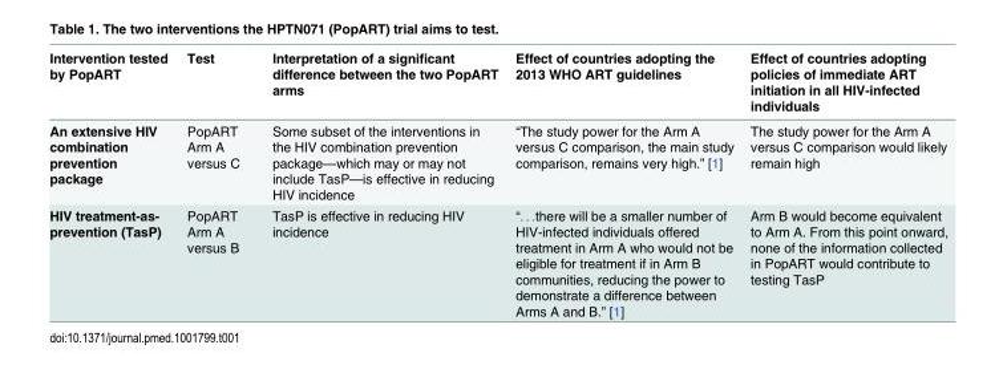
<table><thead><tr><td>Intervention tested by PopART</td><td>Test</td><td>Interpretation of a significant difference between the two PopART arms</td><td>Effect of countries adopting the 2013 WHO ART guidelines</td><td>Effect of countries adopting policies of immediate ART initiation in all HIV-infected individuals</td></tr></thead><tbody><tr><td>An extensive HIV combination prevention package</td><td>PopART Arm A versus C</td><td>Some subset of the interventions in the HIV combination prevention package—which may or may not include TasP—is effective in reducing HIV incidence</td><td>“The study power for the Arm A versus C comparison, the main study comparison, remains very high.” [1]</td><td>The study power for the Arm A versus C comparison would likely remain high</td></tr><tr><td>HIV treatment-as- prevention (TasP)</td><td>PopART Arm A versus B</td><td>TasP is effective in reducing HIV incidence</td><td>“. . .there will be a smaller number of HIV-infected individuals offered treatment in Arm A who would not be eligible for treatment if in Arm B communities, reducing the power to demonstrate a difference between Arms A and B.” [1]</td><td>Arm B would become equivalent to Arm A. From this point onward, none of the information collected in PopART would contribute to testing TasP</td></tr></tbody></table>